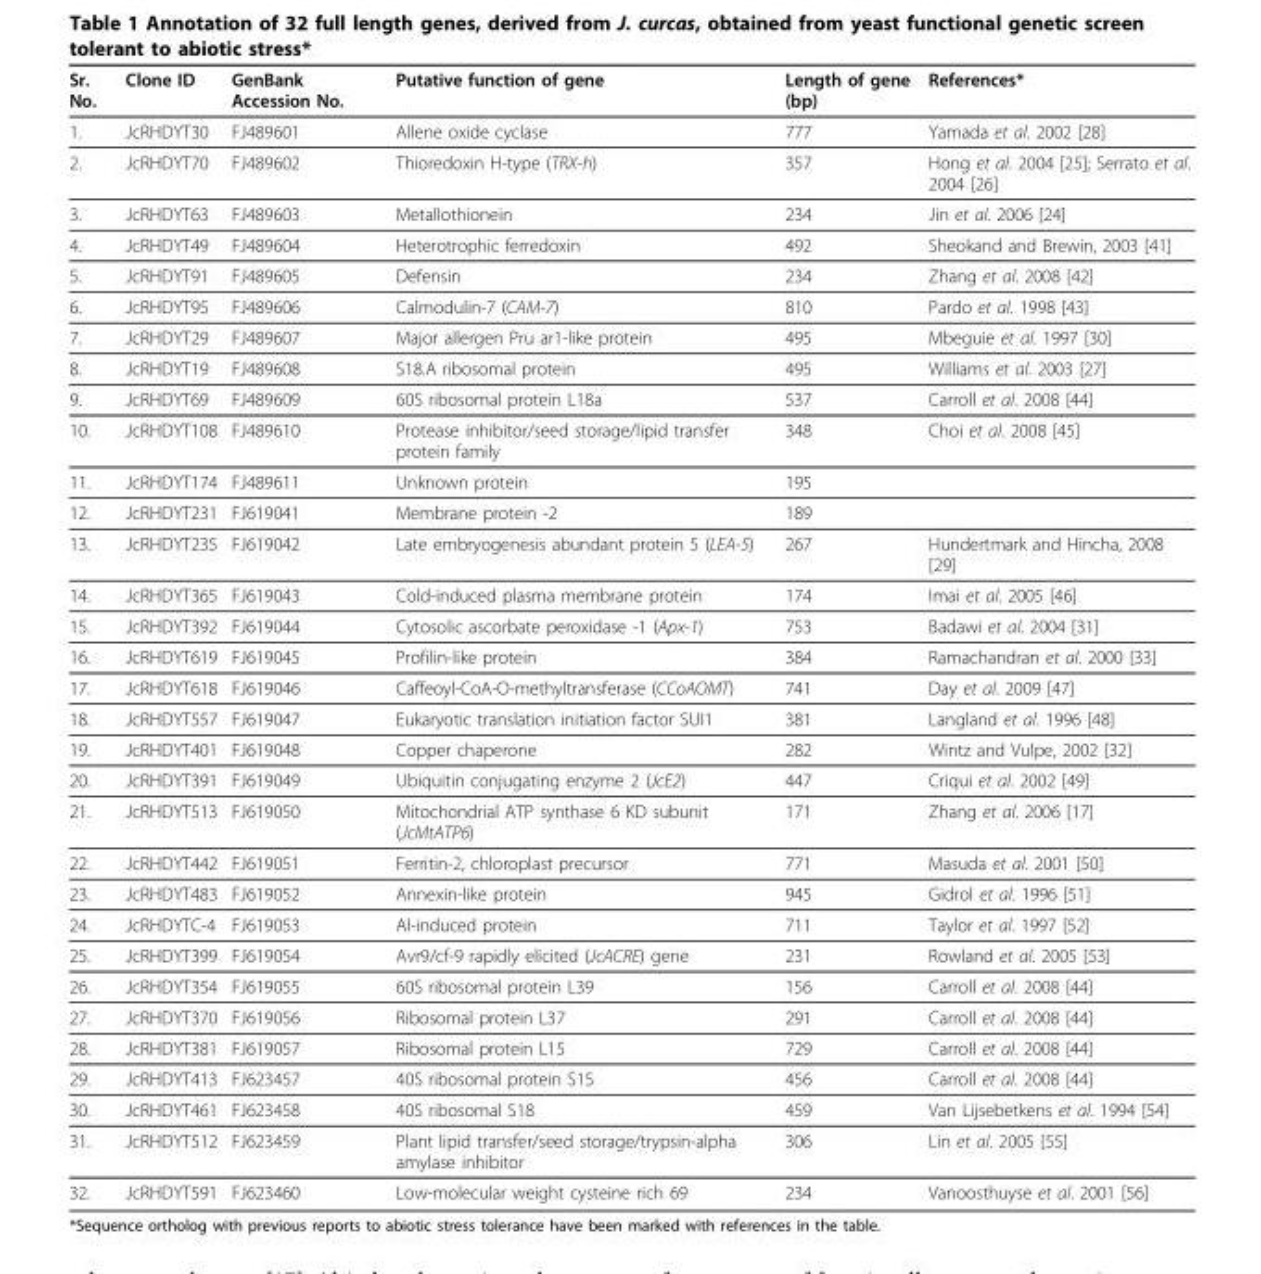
<table><thead><tr><td>Sr. No.</td><td>Clone ID</td><td>GenBank Accession No.</td><td>Putative function of gene</td><td>Length of gene (bp)</td><td>References*</td></tr></thead><tbody><tr><td>1.</td><td>JcRHDYT30</td><td>FJ489601</td><td>Allene oxide cyclase</td><td>777</td><td>Yamada et al. 2002 [28]</td></tr><tr><td>2.</td><td>JcRHDYT70</td><td>FJ489602</td><td>Thioredoxin H-type (TRX-h)</td><td>357</td><td>Hong et al. 2004 [25]; Serrato et al. 2004 [26]</td></tr><tr><td>3.</td><td>JcRHDYT63</td><td>FJ489603</td><td>Metallothionein</td><td>234</td><td>Jin et al. 2006 [24]</td></tr><tr><td>4.</td><td>JcRHDYT49</td><td>FJ489604</td><td>Heterotrophic ferredoxin</td><td>492</td><td>Sheokand and Brewin, 2003 [41]</td></tr><tr><td>5.</td><td>JcRHDYT91</td><td>FJ489605</td><td>Defensin</td><td>234</td><td>Zhang et al. 2008 [42]</td></tr><tr><td>6.</td><td>JcRHDYT95</td><td>FJ489606</td><td>Calmodulin-7 (CAM-7)</td><td>810</td><td>Pardo et al. 1998 [43]</td></tr><tr><td>7.</td><td>JcRHDYT29</td><td>FJ489607</td><td>Major allergen Pru ar1-like protein</td><td>495</td><td>Mbeguie et al. 1997 [30]</td></tr><tr><td>8.</td><td>JcRHDYT19</td><td>FJ489608</td><td>S18.A ribosomal protein</td><td>495</td><td>Williams et al. 2003 [27]</td></tr><tr><td>9.</td><td>JcRHDYT69</td><td>FJ489609</td><td>60S ribosomal protein L18a</td><td>537</td><td>Carroll et al. 2008 [44]</td></tr><tr><td>10.</td><td>JcRHDYT108</td><td>FJ489610</td><td>Protease inhibitor/seed storage/lipid transfer protein family</td><td>348</td><td>Choi et al. 2008 [45]</td></tr><tr><td>11.</td><td>JcRHDYT174</td><td>FJ489611</td><td>Unknown protein</td><td>195</td><td></td></tr><tr><td>12.</td><td>JcRHDYT231</td><td>FJ619041</td><td>Membrane protein -2</td><td>189</td><td></td></tr><tr><td>13.</td><td>JcRHDYT235</td><td>FJ619042</td><td>Late embryogenesis abundant protein 5 (LEA-5)</td><td>267</td><td>Hundertmark and Hincha, 2008 [29]</td></tr><tr><td>14.</td><td>JcRHDYT365</td><td>FJ619043</td><td>Cold-induced plasma membrane protein</td><td>174</td><td>Imai et al. 2005 [46]</td></tr><tr><td>15.</td><td>JcRHDYT392</td><td>FJ619044</td><td>Cytosolic ascorbate peroxidase -1 (Apx-1)</td><td>753</td><td>Badawi et al. 2004 [31]</td></tr><tr><td>16.</td><td>JcRHDYT619</td><td>FJ619045</td><td>Profilin-like protein</td><td>384</td><td>Ramachandran et al. 2000 [33]</td></tr><tr><td>17.</td><td>JcRHDYT618</td><td>FJ619046</td><td>Caffeoyl-CoA-O-methyltransferase (CCoAOMT)</td><td>741</td><td>Day et al. 2009 [47]</td></tr><tr><td>18.</td><td>JcRHDYT557</td><td>FJ619047</td><td>Eukaryotic translation initiation factor SUI1</td><td>381</td><td>Langland et al. 1996 [48]</td></tr><tr><td>19.</td><td>JcRHDYT401</td><td>FJ619048</td><td>Copper chaperone</td><td>282</td><td>Wintz and Vulpe, 2002 [32]</td></tr><tr><td>20.</td><td>JcRHDYT391</td><td>FJ619049</td><td>Ubiquitin conjugating enzyme 2 (JcE2)</td><td>447</td><td>Criqui et al. 2002 [49]</td></tr><tr><td>21.</td><td>JcRHDYT513</td><td>FJ619050</td><td>Mitochondrial ATP synthase 6 KD subunit (JcMtATP6)</td><td>171</td><td>Zhang et al. 2006 [17]</td></tr><tr><td>22.</td><td>JcRHDYT442</td><td>FJ619051</td><td>Ferritin-2, chloroplast precursor</td><td>771</td><td>Masuda et al. 2001 [50]</td></tr><tr><td>23.</td><td>JcRHDYT483</td><td>FJ619052</td><td>Annexin-like protein</td><td>945</td><td>Gidrol et al. 1996 [51]</td></tr><tr><td>24.</td><td>JcRHDYTC-4</td><td>FJ619053</td><td>Al-induced protein</td><td>711</td><td>Taylor et al. 1997 [52]</td></tr><tr><td>25.</td><td>JcRHDYT399</td><td>FJ619054</td><td>Avr9/cf-9 rapidly elicited (JcACRE) gene</td><td>231</td><td>Rowland et al. 2005 [53]</td></tr><tr><td>26.</td><td>JcRHDYT354</td><td>FJ619055</td><td>60S ribosomal protein L39</td><td>156</td><td>Carroll et al. 2008 [44]</td></tr><tr><td>27.</td><td>JcRHDYT370</td><td>FJ619056</td><td>Ribosomal protein L37</td><td>291</td><td>Carroll et al. 2008 [44]</td></tr><tr><td>28.</td><td>JcRHDYT381</td><td>FJ619057</td><td>Ribosomal protein L15</td><td>729</td><td>Carroll et al. 2008 [44]</td></tr><tr><td>29.</td><td>JcRHDYT413</td><td>FJ623457</td><td>40S ribosomal protein S15</td><td>456</td><td>Carroll et al. 2008 [44]</td></tr><tr><td>30.</td><td>JcRHDYT461</td><td>FJ623458</td><td>40S ribosomal S18</td><td>459</td><td>Van Lijsebetkens et al. 1994 [54]</td></tr><tr><td>31.</td><td>JcRHDYT512</td><td>FJ623459</td><td>Plant lipid transfer/seed storage/trypsin-alpha amylase inhibitor</td><td>306</td><td>Lin et al. 2005 [55]</td></tr><tr><td>32.</td><td>JcRHDYT591</td><td>FJ623460</td><td>Low-molecular weight cysteine rich 69</td><td>234</td><td>Vanoosthuyse et al. 2001 [56]</td></tr></tbody></table>